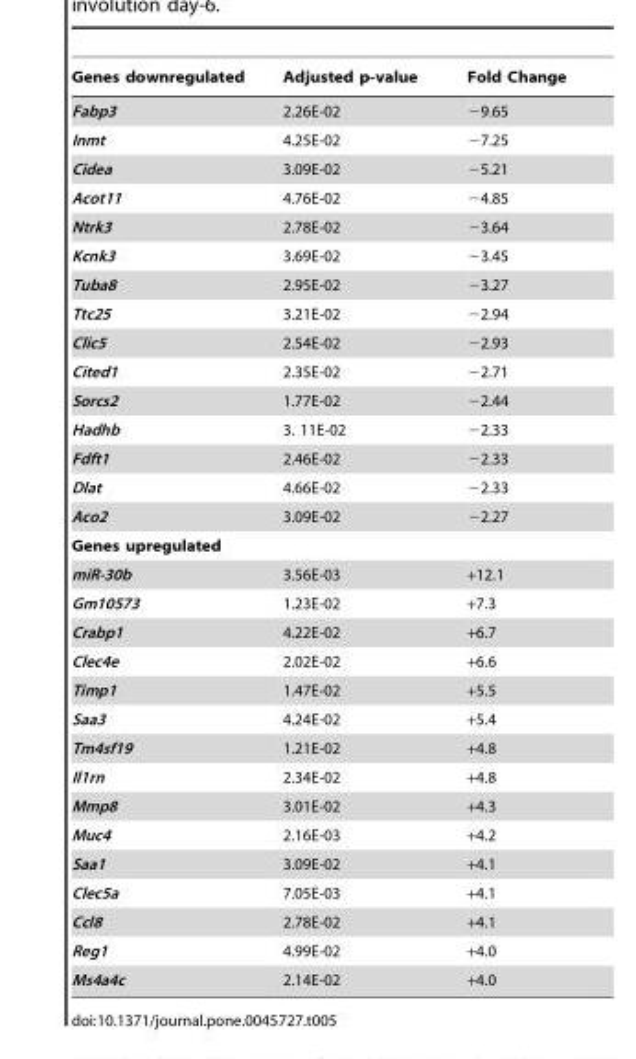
<table><thead><tr><td>Genes downregulated</td><td>Adjusted p-value</td><td>Fold Change</td></tr></thead><tbody><tr><td>Fabp3</td><td>2.26E-02</td><td>−9.65</td></tr><tr><td>Inmt</td><td>4.25E-02</td><td>−7.25</td></tr><tr><td>Cidea</td><td>3.09E-02</td><td>−5.21</td></tr><tr><td>Acot11</td><td>4.76E-02</td><td>−4.85</td></tr><tr><td>Ntrk3</td><td>2.78E-02</td><td>−3.64</td></tr><tr><td>Kcnk3</td><td>3.69E-02</td><td>−3.45</td></tr><tr><td>Tuba8</td><td>2.95E-02</td><td>−3.27</td></tr><tr><td>Ttc25</td><td>3.21E-02</td><td>−2.94</td></tr><tr><td>Clic5</td><td>2.54E-02</td><td>−2.93</td></tr><tr><td>Cited1</td><td>2.35E-02</td><td>−2.71</td></tr><tr><td>Sorcs2</td><td>1.77E-02</td><td>−2.44</td></tr><tr><td>Hadhb</td><td>3. 11E-02</td><td>−2.33</td></tr><tr><td>Fdft1</td><td>2.46E-02</td><td>−2.33</td></tr><tr><td>Dlat</td><td>4.66E-02</td><td>−2.33</td></tr><tr><td>Aco2</td><td>3.09E-02</td><td>−2.27</td></tr><tr><td colspan="3">Genes upregulated</td></tr><tr><td>miR-30b</td><td>3.56E-03</td><td>+12.1</td></tr><tr><td>Gm10573</td><td>1.23E-02</td><td>+7.3</td></tr><tr><td>Crabp1</td><td>4.22E-02</td><td>+6.7</td></tr><tr><td>Clec4e</td><td>2.02E-02</td><td>+6.6</td></tr><tr><td>Timp1</td><td>1.47E-02</td><td>+5.5</td></tr><tr><td>Saa3</td><td>4.24E-02</td><td>+5.4</td></tr><tr><td>Tm4sf19</td><td>1.21E-02</td><td>+4.8</td></tr><tr><td>Il1rn</td><td>2.34E-02</td><td>+4.8</td></tr><tr><td>Mmp8</td><td>3.01E-02</td><td>+4.3</td></tr><tr><td>Muc4</td><td>2.16E-03</td><td>+4.2</td></tr><tr><td>Saa1</td><td>3.09E-02</td><td>+4.1</td></tr><tr><td>Clec5a</td><td>7.05E-03</td><td>+4.1</td></tr><tr><td>Ccl8</td><td>2.78E-02</td><td>+4.1</td></tr><tr><td>Reg1</td><td>4.99E-02</td><td>+4.0</td></tr><tr><td>Ms4a4c</td><td>2.14E-02</td><td>+4.0</td></tr></tbody></table>